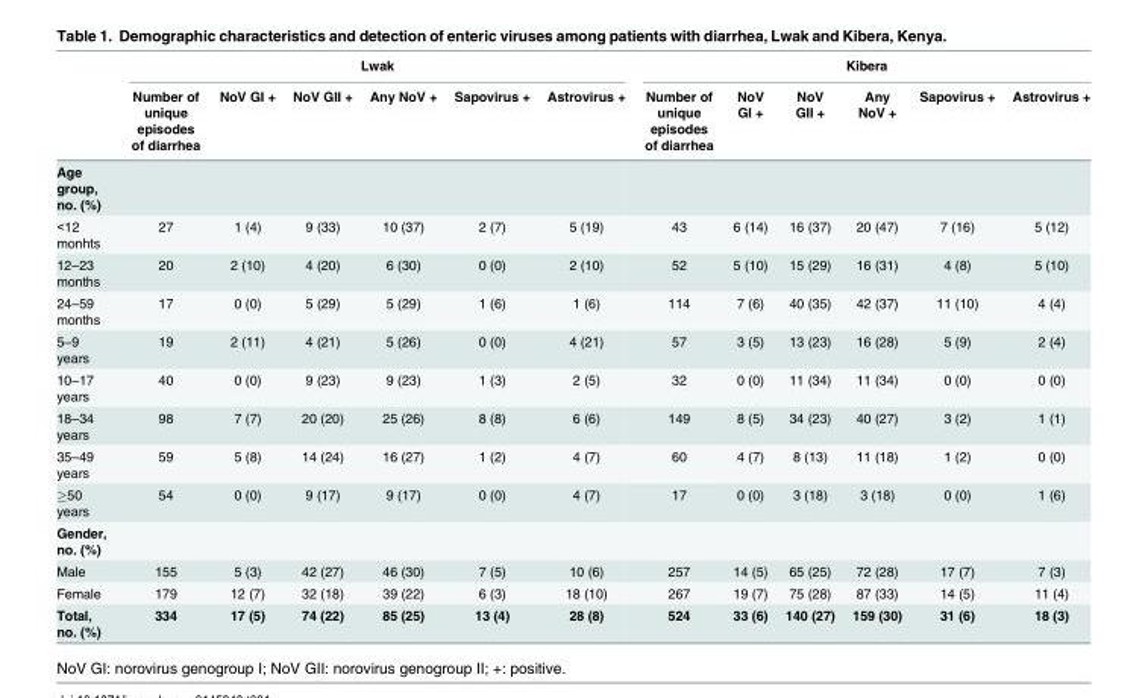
<table><thead><tr><td rowspan="2"></td><td colspan="6">Lwak</td><td colspan="6">Kibera</td></tr><tr><td>Number of unique episodes of diarrhea</td><td>NoV GI +</td><td>NoV GII +</td><td>Any NoV +</td><td>Sapovirus +</td><td>Astrovirus +</td><td>Number of unique episodes of diarrhea</td><td>NoV GI +</td><td>NoV GII +</td><td>Any NoV +</td><td>Sapovirus +</td><td>Astrovirus +</td></tr></thead><tbody><tr><td colspan="13">Age group, no. (%)</td></tr><tr><td>&lt;12 monhts</td><td>27</td><td>1 (4)</td><td>9 (33)</td><td>10 (37)</td><td>2 (7)</td><td>5 (19)</td><td>43</td><td>6 (14)</td><td>16 (37)</td><td>20 (47)</td><td>7 (16)</td><td>5 (12)</td></tr><tr><td>12–23 months</td><td>20</td><td>2 (10)</td><td>4 (20)</td><td>6 (30)</td><td>0 (0)</td><td>2 (10)</td><td>52</td><td>5 (10)</td><td>15 (29)</td><td>16 (31)</td><td>4 (8)</td><td>5 (10)</td></tr><tr><td>24–59 months</td><td>17</td><td>0 (0)</td><td>5 (29)</td><td>5 (29)</td><td>1 (6)</td><td>1 (6)</td><td>114</td><td>7 (6)</td><td>40 (35)</td><td>42 (37)</td><td>11 (10)</td><td>4 (4)</td></tr><tr><td>5–9 years</td><td>19</td><td>2 (11)</td><td>4 (21)</td><td>5 (26)</td><td>0 (0)</td><td>4 (21)</td><td>57</td><td>3 (5)</td><td>13 (23)</td><td>16 (28)</td><td>5 (9)</td><td>2 (4)</td></tr><tr><td>10–17 years</td><td>40</td><td>0 (0)</td><td>9 (23)</td><td>9 (23)</td><td>1 (3)</td><td>2 (5)</td><td>32</td><td>0 (0)</td><td>11 (34)</td><td>11 (34)</td><td>0 (0)</td><td>0 (0)</td></tr><tr><td>18–34 years</td><td>98</td><td>7 (7)</td><td>20 (20)</td><td>25 (26)</td><td>8 (8)</td><td>6 (6)</td><td>149</td><td>8 (5)</td><td>34 (23)</td><td>40 (27)</td><td>3 (2)</td><td>1 (1)</td></tr><tr><td>35–49 years</td><td>59</td><td>5 (8)</td><td>14 (24)</td><td>16 (27)</td><td>1 (2)</td><td>4 (7)</td><td>60</td><td>4 (7)</td><td>8 (13)</td><td>11 (18)</td><td>1 (2)</td><td>0 (0)</td></tr><tr><td>≥50 years</td><td>54</td><td>0 (0)</td><td>9 (17)</td><td>9 (17)</td><td>0 (0)</td><td>4 (7)</td><td>17</td><td>0 (0)</td><td>3 (18)</td><td>3 (18)</td><td>0 (0)</td><td>1 (6)</td></tr><tr><td colspan="13">Gender, no. (%)</td></tr><tr><td>Male</td><td>155</td><td>5 (3)</td><td>42 (27)</td><td>46 (30)</td><td>7 (5)</td><td>10 (6)</td><td>257</td><td>14 (5)</td><td>65 (25)</td><td>72 (28)</td><td>17 (7)</td><td>7 (3)</td></tr><tr><td>Female</td><td>179</td><td>12 (7)</td><td>32 (18)</td><td>39 (22)</td><td>6 (3)</td><td>18 (10)</td><td>267</td><td>19 (7)</td><td>75 (28)</td><td>87 (33)</td><td>14 (5)</td><td>11 (4)</td></tr><tr><td>Total, no. (%)</td><td>334</td><td>17 (5)</td><td>74 (22)</td><td>85 (25)</td><td>13 (4)</td><td>28 (8)</td><td>524</td><td>33 (6)</td><td>140 (27)</td><td>159 (30)</td><td>31 (6)</td><td>18 (3)</td></tr></tbody></table>